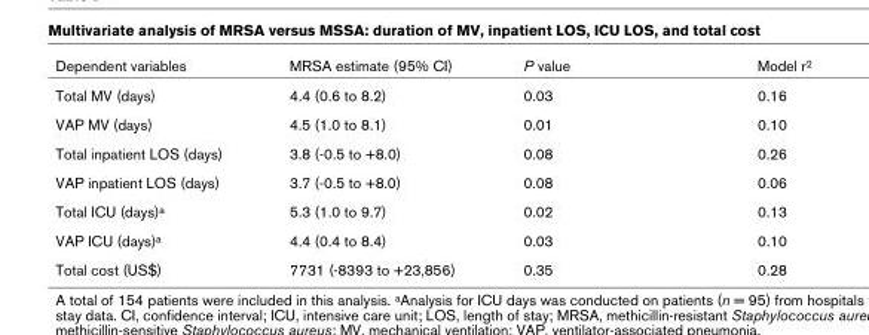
<table><thead><tr><td>Dependent variables</td><td>MRSA estimate (95% CI)</td><td>P value</td><td>Model r2</td></tr></thead><tbody><tr><td>Total MV (days)</td><td>4.4 (0.6 to 8.2)</td><td>0.03</td><td>0.16</td></tr><tr><td>VAP MV (days)</td><td>4.5 (1.0 to 8.1)</td><td>0.01</td><td>0.10</td></tr><tr><td>Total inpatient LOS (days)</td><td>3.8 (-0.5 to +8.0)</td><td>0.08</td><td>0.26</td></tr><tr><td>VAP inpatient LOS (days)</td><td>3.7 (-0.5 to +8.0)</td><td>0.08</td><td>0.06</td></tr><tr><td>Total ICU (days)a</td><td>5.3 (1.0 to 9.7)</td><td>0.02</td><td>0.13</td></tr><tr><td>VAP ICU (days)a</td><td>4.4 (0.4 to 8.4)</td><td>0.03</td><td>0.10</td></tr><tr><td>Total cost (US$)</td><td>7731 (-8393 to +23,856)</td><td>0.35</td><td>0.28</td></tr></tbody></table>